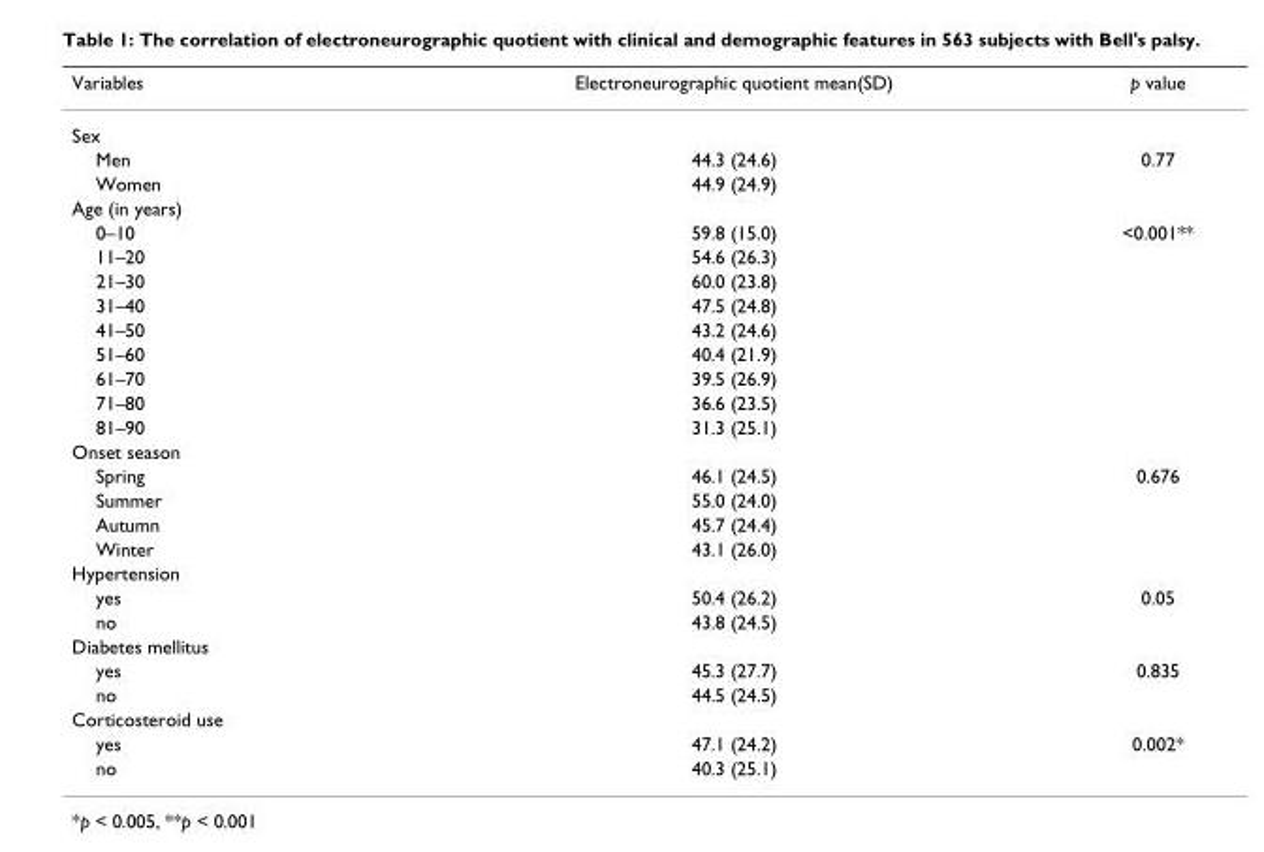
<table><thead><tr><td>Variables</td><td>Electroneurographic quotient mean(SD)</td><td>p value</td></tr></thead><tbody><tr><td colspan="3">Sex</td></tr><tr><td>Men</td><td>44.3 (24.6)</td><td>0.77</td></tr><tr><td>Women</td><td>44.9 (24.9)</td><td></td></tr><tr><td colspan="3">Age (in years)</td></tr><tr><td>0–10</td><td>59.8 (15.0)</td><td>&lt;0.001**</td></tr><tr><td>11–20</td><td>54.6 (26.3)</td><td></td></tr><tr><td>21–30</td><td>60.0 (23.8)</td><td></td></tr><tr><td>31–40</td><td>47.5 (24.8)</td><td></td></tr><tr><td>41–50</td><td>43.2 (24.6)</td><td></td></tr><tr><td>51–60</td><td>40.4 (21.9)</td><td></td></tr><tr><td>61–70</td><td>39.5 (26.9)</td><td></td></tr><tr><td>71–80</td><td>36.6 (23.5)</td><td></td></tr><tr><td>81–90</td><td>31.3 (25.1)</td><td></td></tr><tr><td colspan="3">Onset season</td></tr><tr><td>Spring</td><td>46.1 (24.5)</td><td>0.676</td></tr><tr><td>Summer</td><td>55.0 (24.0)</td><td></td></tr><tr><td>Autumn</td><td>45.7 (24.4)</td><td></td></tr><tr><td>Winter</td><td>43.1 (26.0)</td><td></td></tr><tr><td colspan="3">Hypertension</td></tr><tr><td>yes</td><td>50.4 (26.2)</td><td>0.05</td></tr><tr><td>no</td><td>43.8 (24.5)</td><td></td></tr><tr><td colspan="3">Diabetes mellitus</td></tr><tr><td>yes</td><td>45.3 (27.7)</td><td>0.835</td></tr><tr><td>no</td><td>44.5 (24.5)</td><td></td></tr><tr><td colspan="3">Corticosteroid use</td></tr><tr><td>yes</td><td>47.1 (24.2)</td><td>0.002*</td></tr><tr><td>no</td><td>40.3 (25.1)</td><td></td></tr></tbody></table>